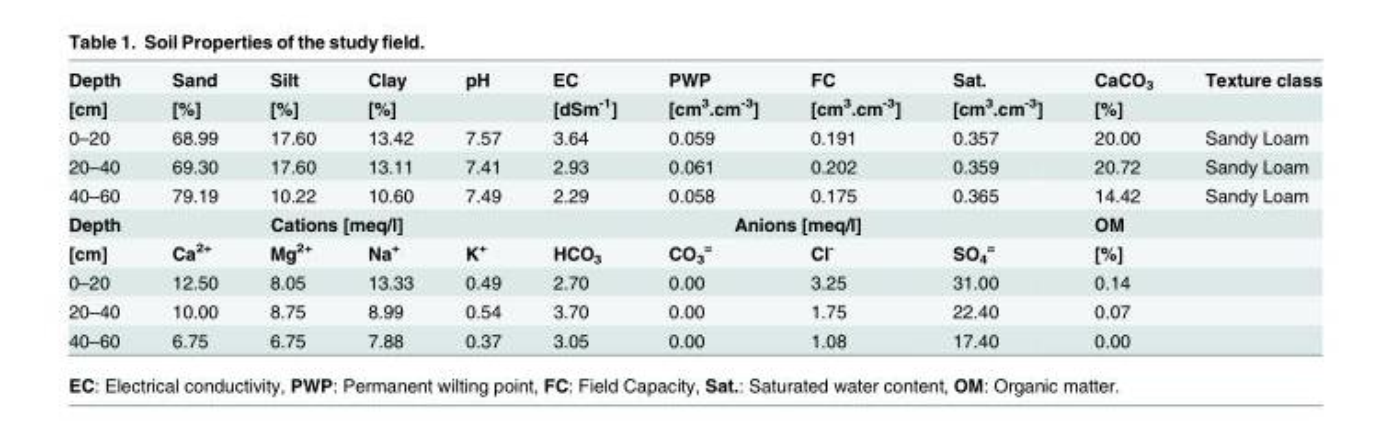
<table><tbody><tr><td>Depth</td><td>Sand</td><td>Silt</td><td>Clay</td><td>pH</td><td>EC</td><td>PWP</td><td>FC</td><td>Sat.</td><td>CaCO<sub>3</sub></td><td>Texture class</td></tr><tr><td>[cm]</td><td>[%]</td><td>[%]</td><td>[%]</td><td></td><td>[dSm<sup>-1</sup>]</td><td>[cm<sup>3</sup>.cm<sup>-3</sup>]</td><td>[cm<sup>3</sup>.cm<sup>-3</sup>]</td><td>[cm<sup>3</sup>.cm<sup>-3</sup>]</td><td>[%]</td><td></td></tr><tr><td>0–20</td><td>68.99</td><td>17.60</td><td>13.42</td><td>7.57</td><td>3.64</td><td>0.059</td><td>0.191</td><td>0.357</td><td>20.00</td><td>Sandy Loam</td></tr><tr><td>20–40</td><td>69.30</td><td>17.60</td><td>13.11</td><td>7.41</td><td>2.93</td><td>0.061</td><td>0.202</td><td>0.359</td><td>20.72</td><td>Sandy Loam</td></tr><tr><td>40–60</td><td>79.19</td><td>10.22</td><td>10.60</td><td>7.49</td><td>2.29</td><td>0.058</td><td>0.175</td><td>0.365</td><td>14.42</td><td>Sandy Loam</td></tr><tr><td>Depth</td><td colspan="4">Cations [meq/l]</td><td colspan="4">Anions [meq/l]</td><td>OM</td><td></td></tr><tr><td>[cm]</td><td>Ca<sup>2+</sup></td><td>Mg<sup>2+</sup></td><td>Na<sup>+</sup></td><td>K<sup>+</sup></td><td>HCO<sub>3</sub></td><td>CO<sub>3</sub> <sup>=</sup></td><td>Cl<sup>-</sup></td><td>SO<sub>4</sub> <sup>=</sup></td><td>[%]</td><td></td></tr><tr><td>0–20</td><td>12.50</td><td>8.05</td><td>13.33</td><td>0.49</td><td>2.70</td><td>0.00</td><td>3.25</td><td>31.00</td><td>0.14</td><td></td></tr><tr><td>20–40</td><td>10.00</td><td>8.75</td><td>8.99</td><td>0.54</td><td>3.70</td><td>0.00</td><td>1.75</td><td>22.40</td><td>0.07</td><td></td></tr><tr><td>40–60</td><td>6.75</td><td>6.75</td><td>7.88</td><td>0.37</td><td>3.05</td><td>0.00</td><td>1.08</td><td>17.40</td><td>0.00</td><td></td></tr></tbody></table>